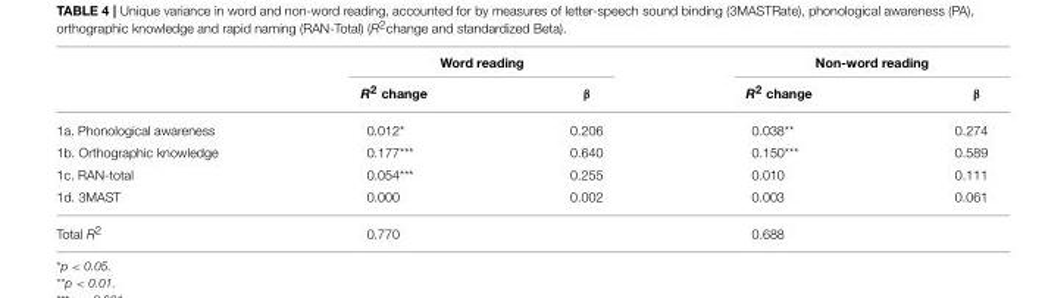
<table><thead><tr><td rowspan="2"></td><td colspan="2">Word reading</td><td colspan="2">Non-word reading</td></tr><tr><td>R<sup>2</sup> change</td><td>β</td><td>R<sup>2</sup> change</td><td>β</td></tr></thead><tbody><tr><td>1a. Phonological awareness</td><td>0.012*</td><td>0.206</td><td>0.038**</td><td>0.274</td></tr><tr><td>1b. Orthographic knowledge</td><td>0.177***</td><td>0.640</td><td>0.150***</td><td>0.589</td></tr><tr><td>1c. RAN-total</td><td>0.054***</td><td>0.255</td><td>0.010</td><td>0.111</td></tr><tr><td>1d. 3MAST</td><td>0.000</td><td>0.002</td><td>0.003</td><td>0.061</td></tr><tr><td>Total R<sup>2</sup></td><td>0.770</td><td></td><td>0.688</td><td></td></tr></tbody></table>